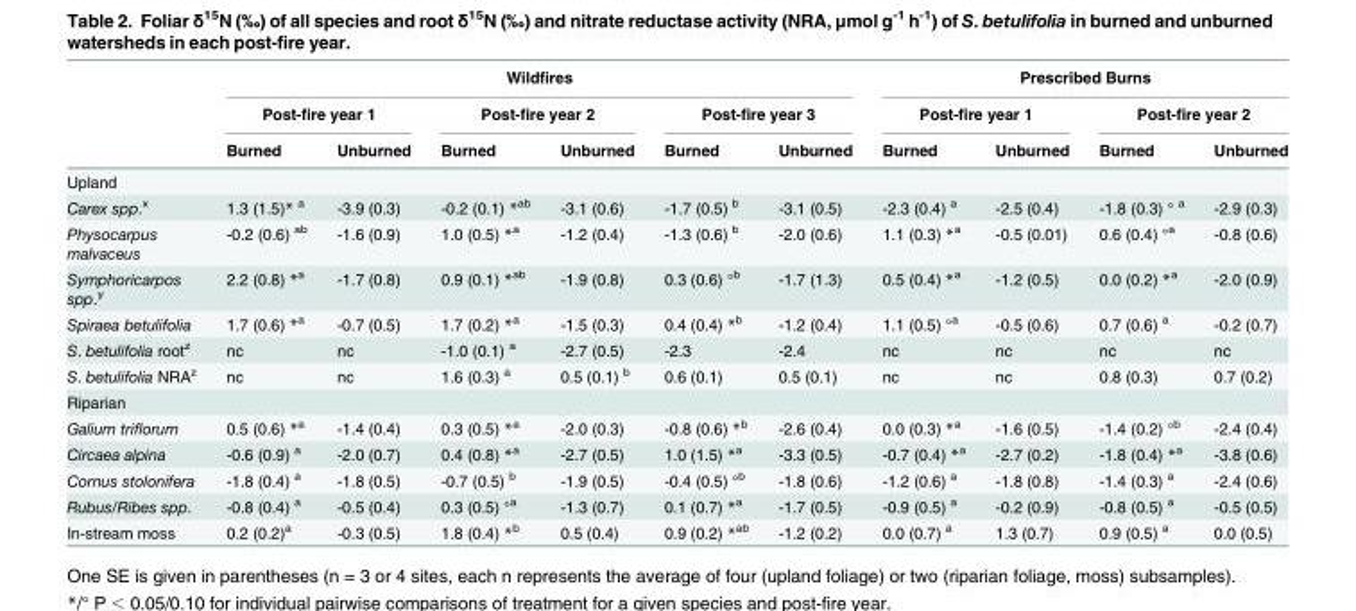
<table><thead><tr><td rowspan="3"></td><td colspan="6">Wildfires</td><td colspan="4">Prescribed Burns</td></tr><tr><td colspan="2">Post-fire year 1</td><td colspan="2">Post-fire year 2</td><td colspan="2">Post-fire year 3</td><td colspan="2">Post-fire year 1</td><td colspan="2">Post-fire year 2</td></tr><tr><td>Burned</td><td>Unburned</td><td>Burned</td><td>Unburned</td><td>Burned</td><td>Unburned</td><td>Burned</td><td>Unburned</td><td>Burned</td><td>Unburned</td></tr></thead><tbody><tr><td colspan="11">Upland</td></tr><tr><td>Carex spp.<sup>x</sup></td><td>1.3 (1.5)* <sup>a</sup></td><td>-3.9 (0.3)</td><td>-0.2 (0.1) *<sup>ab</sup></td><td>-3.1 (0.6)</td><td>-1.7 (0.5) <sup>b</sup></td><td>-3.1 (0.5)</td><td>-2.3 (0.4) <sup>a</sup></td><td>-2.5 (0.4)</td><td>-1.8 (0.3) ° <sup>a</sup></td><td>-2.9 (0.3)</td></tr><tr><td>Physocarpus malvaceus</td><td>-0.2 (0.6) <sup>ab</sup></td><td>-1.6 (0.9)</td><td>1.0 (0.5) *<sup>a</sup></td><td>-1.2 (0.4)</td><td>-1.3 (0.6) <sup>b</sup></td><td>-2.0 (0.6)</td><td>1.1 (0.3) *<sup>a</sup></td><td>-0.5 (0.01)</td><td>0.6 (0.4) °<sup>a</sup></td><td>-0.8 (0.6)</td></tr><tr><td>Symphoricarpos spp.<sup>y</sup></td><td>2.2 (0.8) *<sup>a</sup></td><td>-1.7 (0.8)</td><td>0.9 (0.1) *<sup>ab</sup></td><td>-1.9 (0.8)</td><td>0.3 (0.6) °<sup>b</sup></td><td>-1.7 (1.3)</td><td>0.5 (0.4) *<sup>a</sup></td><td>-1.2 (0.5)</td><td>0.0 (0.2) *<sup>a</sup></td><td>-2.0 (0.9)</td></tr><tr><td>Spiraea betulifolia</td><td>1.7 (0.6) *<sup>a</sup></td><td>-0.7 (0.5)</td><td>1.7 (0.2) *<sup>a</sup></td><td>-1.5 (0.3)</td><td>0.4 (0.4) *<sup>b</sup></td><td>-1.2 (0.4)</td><td>1.1 (0.5) °<sup>a</sup></td><td>-0.5 (0.6)</td><td>0.7 (0.6) <sup>a</sup></td><td>-0.2 (0.7)</td></tr><tr><td>S. betulifolia root<sup>z</sup></td><td>nc</td><td>nc</td><td>-1.0 (0.1) <sup>a</sup></td><td>-2.7 (0.5)</td><td>-2.3</td><td>-2.4</td><td>nc</td><td>nc</td><td>nc</td><td>nc</td></tr><tr><td>S. betulifolia NRA<sup>z</sup></td><td>nc</td><td>nc</td><td>1.6 (0.3) <sup>a</sup></td><td>0.5 (0.1) <sup>b</sup></td><td>0.6 (0.1)</td><td>0.5 (0.1)</td><td>nc</td><td>nc</td><td>0.8 (0.3)</td><td>0.7 (0.2)</td></tr><tr><td colspan="11">Riparian</td></tr><tr><td>Galium triflorum</td><td>0.5 (0.6) *<sup>a</sup></td><td>-1.4 (0.4)</td><td>0.3 (0.5) *<sup>a</sup></td><td>-2.0 (0.3)</td><td>-0.8 (0.6) *<sup>b</sup></td><td>-2.6 (0.4)</td><td>0.0 (0.3) *<sup>a</sup></td><td>-1.6 (0.5)</td><td>-1.4 (0.2) °<sup>b</sup></td><td>-2.4 (0.4)</td></tr><tr><td>Circaea alpina</td><td>-0.6 (0.9) <sup>a</sup></td><td>-2.0 (0.7)</td><td>0.4 (0.8) *<sup>a</sup></td><td>-2.7 (0.5)</td><td>1.0 (1.5) *<sup>a</sup></td><td>-3.3 (0.5)</td><td>-0.7 (0.4) *<sup>a</sup></td><td>-2.7 (0.2)</td><td>-1.8 (0.4) *<sup>a</sup></td><td>-3.8 (0.6)</td></tr><tr><td>Cornus stolonifera</td><td>-1.8 (0.4) <sup>a</sup></td><td>-1.8 (0.5)</td><td>-0.7 (0.5) <sup>b</sup></td><td>-1.9 (0.5)</td><td>-0.4 (0.5) °<sup>b</sup></td><td>-1.8 (0.6)</td><td>-1.2 (0.6) <sup>a</sup></td><td>-1.8 (0.8)</td><td>-1.4 (0.3) <sup>a</sup></td><td>-2.4 (0.6)</td></tr><tr><td>Rubus/Ribes spp.</td><td>-0.8 (0.4) <sup>a</sup></td><td>-0.5 (0.4)</td><td>0.3 (0.5) °<sup>a</sup></td><td>-1.3 (0.7)</td><td>0.1 (0.7) *<sup>a</sup></td><td>-1.7 (0.5)</td><td>-0.9 (0.5) <sup>a</sup></td><td>-0.2 (0.9)</td><td>-0.8 (0.5) <sup>a</sup></td><td>-0.5 (0.5)</td></tr><tr><td>In-stream moss</td><td>0.2 (0.2)<sup>a</sup></td><td>-0.3 (0.5)</td><td>1.8 (0.4) *<sup>b</sup></td><td>0.5 (0.4)</td><td>0.9 (0.2) *<sup>ab</sup></td><td>-1.2 (0.2)</td><td>0.0 (0.7) <sup>a</sup></td><td>1.3 (0.7)</td><td>0.9 (0.5) <sup>a</sup></td><td>0.0 (0.5)</td></tr></tbody></table>